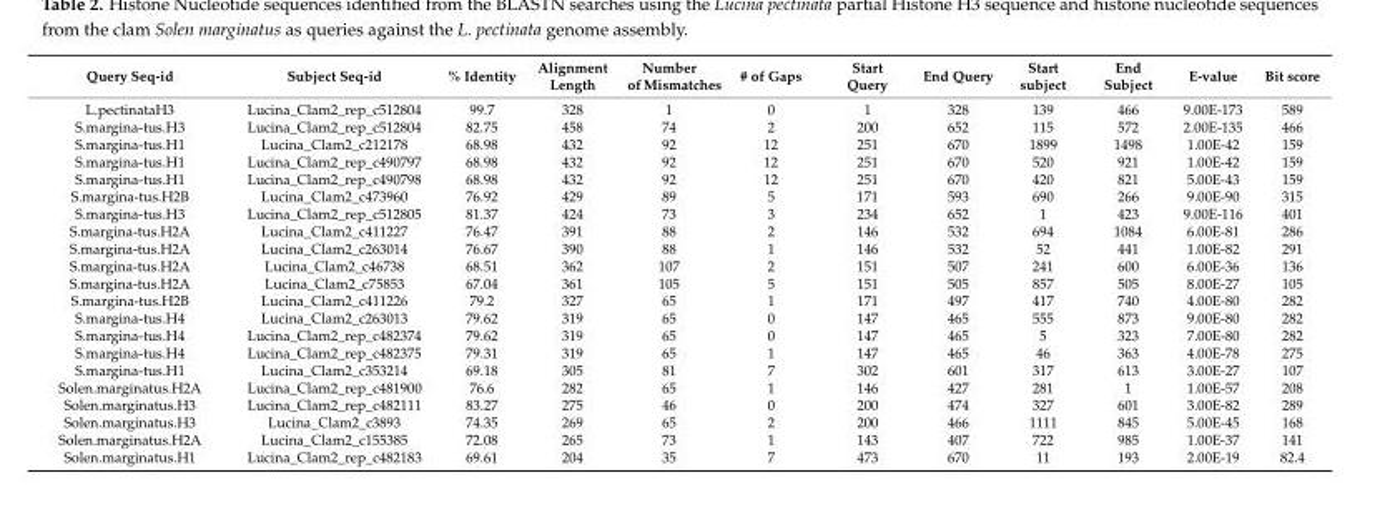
<table><thead><tr><td>Query Seq-id</td><td>Subject Seq-id</td><td>% Identity</td><td>Alignment Length</td><td>Number of Mismatches</td><td># of Gaps</td><td>Start Query</td><td>End Query</td><td>Start subject</td><td>End Subject</td><td>E-value</td><td>Bit score</td></tr></thead><tbody><tr><td>L.pectinataH3</td><td>Lucina_Clam2_rep_c512804</td><td>99.7</td><td>328</td><td>1</td><td>0</td><td>1</td><td>328</td><td>139</td><td>466</td><td>9.00E-173</td><td>589</td></tr><tr><td>S.margina-tus.H3</td><td>Lucina_Clam2_rep_c512804</td><td>82.75</td><td>458</td><td>74</td><td>2</td><td>200</td><td>652</td><td>115</td><td>572</td><td>2.00E-135</td><td>466</td></tr><tr><td>S.margina-tus.H1</td><td>Lucina_Clam2_c212178</td><td>68.98</td><td>432</td><td>92</td><td>12</td><td>251</td><td>670</td><td>1899</td><td>1498</td><td>1.00E-42</td><td>159</td></tr><tr><td>S.margina-tus.H1</td><td>Lucina_Clam2_rep_c490797</td><td>68.98</td><td>432</td><td>92</td><td>12</td><td>251</td><td>670</td><td>520</td><td>921</td><td>1.00E-42</td><td>159</td></tr><tr><td>S.margina-tus.H1</td><td>Lucina_Clam2_rep_c490798</td><td>68.98</td><td>432</td><td>92</td><td>12</td><td>251</td><td>670</td><td>420</td><td>821</td><td>5.00E-43</td><td>159</td></tr><tr><td>S.margina-tus.H2B</td><td>Lucina_Clam2_c473960</td><td>76.92</td><td>429</td><td>89</td><td>5</td><td>171</td><td>593</td><td>690</td><td>266</td><td>9.00E-90</td><td>315</td></tr><tr><td>S.margina-tus.H3</td><td>Lucina_Clam2_rep_c512805</td><td>81.37</td><td>424</td><td>73</td><td>3</td><td>234</td><td>652</td><td>1</td><td>423</td><td>9.00E-116</td><td>401</td></tr><tr><td>S.margina-tus.H2A</td><td>Lucina_Clam2_c411227</td><td>76.47</td><td>391</td><td>88</td><td>2</td><td>146</td><td>532</td><td>694</td><td>1084</td><td>6.00E-81</td><td>286</td></tr><tr><td>S.margina-tus.H2A</td><td>Lucina_Clam2_c263014</td><td>76.67</td><td>390</td><td>88</td><td>1</td><td>146</td><td>532</td><td>52</td><td>441</td><td>1.00E-82</td><td>291</td></tr><tr><td>S.margina-tus.H2A</td><td>Lucina_Clam2_c46738</td><td>68.51</td><td>362</td><td>107</td><td>2</td><td>151</td><td>507</td><td>241</td><td>600</td><td>6.00E-36</td><td>136</td></tr><tr><td>S.margina-tus.H2A</td><td>Lucina_Clam2_c75853</td><td>67.04</td><td>361</td><td>105</td><td>5</td><td>151</td><td>505</td><td>857</td><td>505</td><td>8.00E-27</td><td>105</td></tr><tr><td>S.margina-tus.H2B</td><td>Lucina_Clam2_c411226</td><td>79.2</td><td>327</td><td>65</td><td>1</td><td>171</td><td>497</td><td>417</td><td>740</td><td>4.00E-80</td><td>282</td></tr><tr><td>S.margina-tus.H4</td><td>Lucina_Clam2_c263013</td><td>79.62</td><td>319</td><td>65</td><td>0</td><td>147</td><td>465</td><td>555</td><td>873</td><td>9.00E-80</td><td>282</td></tr><tr><td>S.margina-tus.H4</td><td>Lucina_Clam2_rep_c482374</td><td>79.62</td><td>319</td><td>65</td><td>0</td><td>147</td><td>465</td><td>5</td><td>323</td><td>7.00E-80</td><td>282</td></tr><tr><td>S.margina-tus.H4</td><td>Lucina_Clam2_rep_c482375</td><td>79.31</td><td>319</td><td>65</td><td>1</td><td>147</td><td>465</td><td>46</td><td>363</td><td>4.00E-78</td><td>275</td></tr><tr><td>S.margina-tus.H1</td><td>Lucina_Clam2_c353214</td><td>69.18</td><td>305</td><td>81</td><td>7</td><td>302</td><td>601</td><td>317</td><td>613</td><td>3.00E-27</td><td>107</td></tr><tr><td>Solen.marginatus.H2A</td><td>Lucina_Clam2_rep_c481900</td><td>76.6</td><td>282</td><td>65</td><td>1</td><td>146</td><td>427</td><td>281</td><td>1</td><td>1.00E-57</td><td>208</td></tr><tr><td>Solen.marginatus.H3</td><td>Lucina_Clam2_rep_c482111</td><td>83.27</td><td>275</td><td>46</td><td>0</td><td>200</td><td>474</td><td>327</td><td>601</td><td>3.00E-82</td><td>289</td></tr><tr><td>Solen.marginatus.H3</td><td>Lucina_Clam2_c3893</td><td>74.35</td><td>269</td><td>65</td><td>2</td><td>200</td><td>466</td><td>1111</td><td>845</td><td>5.00E-45</td><td>168</td></tr><tr><td>Solen.marginatus.H2A</td><td>Lucina_Clam2_c155385</td><td>72.08</td><td>265</td><td>73</td><td>1</td><td>143</td><td>407</td><td>722</td><td>985</td><td>1.00E-37</td><td>141</td></tr><tr><td>Solen.marginatus.H1</td><td>Lucina_Clam2_rep_c482183</td><td>69.61</td><td>204</td><td>35</td><td>7</td><td>473</td><td>670</td><td>11</td><td>193</td><td>2.00E-19</td><td>82.4</td></tr></tbody></table>